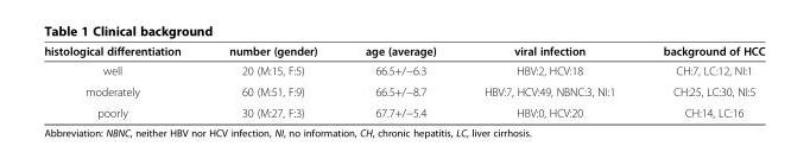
<table><thead><tr><td>histological differentiation</td><td>number (gender)</td><td>age (average)</td><td>viral infection</td><td>background of HCC</td></tr></thead><tbody><tr><td>well</td><td>20 (M:15, F:5)</td><td>66.5+/−6.3</td><td>HBV:2, HCV:18</td><td>CH:7, LC:12, NI:1</td></tr><tr><td>moderately</td><td>60 (M:51, F:9)</td><td>66.5+/−8.7</td><td>HBV:7, HCV:49, NBNC:3, NI:1</td><td>CH:25, LC:30, NI:5</td></tr><tr><td>poorly</td><td>30 (M:27, F:3)</td><td>67.7+/−5.4</td><td>HBV:0, HCV:20</td><td>CH:14, LC:16</td></tr></tbody></table>